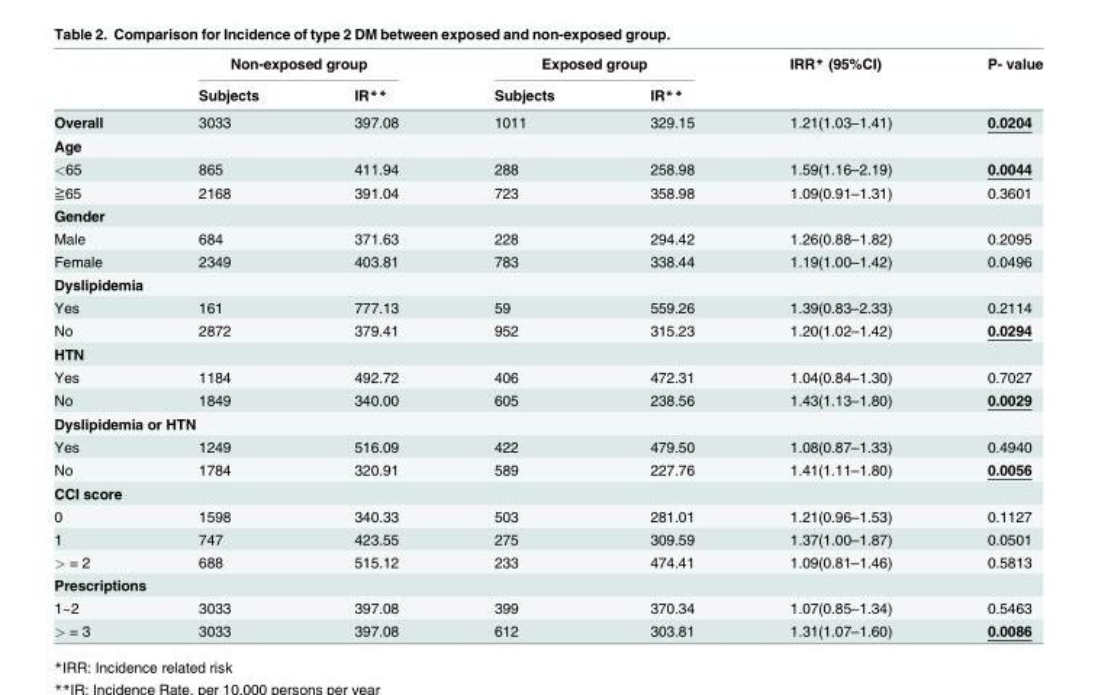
<table><thead><tr><td rowspan="2"></td><td colspan="2">Non-exposed group</td><td colspan="2">Exposed group</td><td rowspan="2">IRR* (95%CI)</td><td rowspan="2">P- value</td></tr><tr><td>Subjects</td><td>IR**</td><td>Subjects</td><td>IR**</td></tr></thead><tbody><tr><td>Overall</td><td>3033</td><td>397.08</td><td>1011</td><td>329.15</td><td>1.21(1.03–1.41)</td><td>0.0204</td></tr><tr><td colspan="7">Age</td></tr><tr><td>&lt;65</td><td>865</td><td>411.94</td><td>288</td><td>258.98</td><td>1.59(1.16–2.19)</td><td>0.0044</td></tr><tr><td>≧65</td><td>2168</td><td>391.04</td><td>723</td><td>358.98</td><td>1.09(0.91–1.31)</td><td>0.3601</td></tr><tr><td colspan="7">Gender</td></tr><tr><td>Male</td><td>684</td><td>371.63</td><td>228</td><td>294.42</td><td>1.26(0.88–1.82)</td><td>0.2095</td></tr><tr><td>Female</td><td>2349</td><td>403.81</td><td>783</td><td>338.44</td><td>1.19(1.00–1.42)</td><td>0.0496</td></tr><tr><td colspan="7">Dyslipidemia</td></tr><tr><td>Yes</td><td>161</td><td>777.13</td><td>59</td><td>559.26</td><td>1.39(0.83–2.33)</td><td>0.2114</td></tr><tr><td>No</td><td>2872</td><td>379.41</td><td>952</td><td>315.23</td><td>1.20(1.02–1.42)</td><td>0.0294</td></tr><tr><td colspan="7">HTN</td></tr><tr><td>Yes</td><td>1184</td><td>492.72</td><td>406</td><td>472.31</td><td>1.04(0.84–1.30)</td><td>0.7027</td></tr><tr><td>No</td><td>1849</td><td>340.00</td><td>605</td><td>238.56</td><td>1.43(1.13–1.80)</td><td>0.0029</td></tr><tr><td colspan="7">Dyslipidemia or HTN</td></tr><tr><td>Yes</td><td>1249</td><td>516.09</td><td>422</td><td>479.50</td><td>1.08(0.87–1.33)</td><td>0.4940</td></tr><tr><td>No</td><td>1784</td><td>320.91</td><td>589</td><td>227.76</td><td>1.41(1.11–1.80)</td><td>0.0056</td></tr><tr><td colspan="7">CCI score</td></tr><tr><td>0</td><td>1598</td><td>340.33</td><td>503</td><td>281.01</td><td>1.21(0.96–1.53)</td><td>0.1127</td></tr><tr><td>1</td><td>747</td><td>423.55</td><td>275</td><td>309.59</td><td>1.37(1.00–1.87)</td><td>0.0501</td></tr><tr><td>&gt; = 2</td><td>688</td><td>515.12</td><td>233</td><td>474.41</td><td>1.09(0.81–1.46)</td><td>0.5813</td></tr><tr><td colspan="7">Prescriptions</td></tr><tr><td>1~2</td><td>3033</td><td>397.08</td><td>399</td><td>370.34</td><td>1.07(0.85–1.34)</td><td>0.5463</td></tr><tr><td>&gt; = 3</td><td>3033</td><td>397.08</td><td>612</td><td>303.81</td><td>1.31(1.07–1.60)</td><td>0.0086</td></tr></tbody></table>